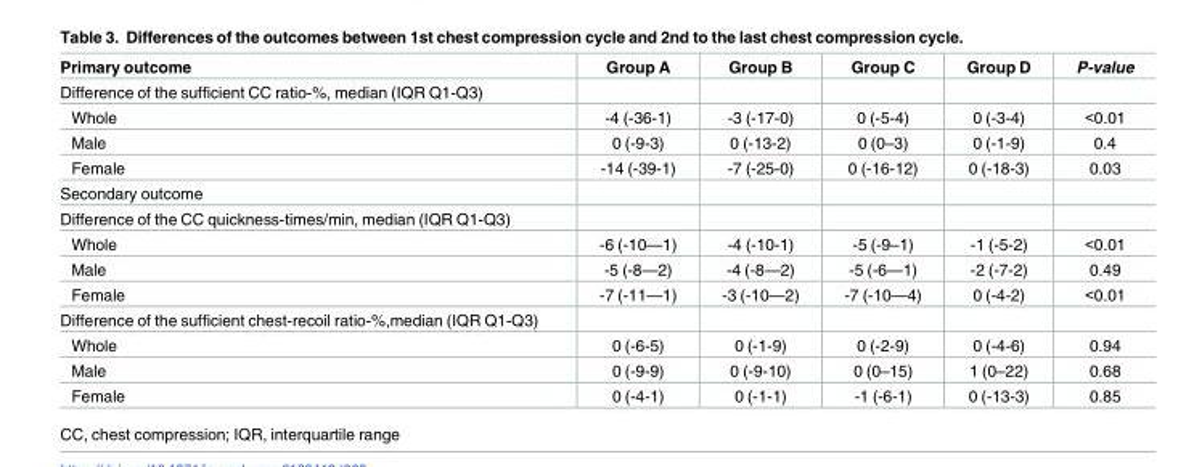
<table><thead><tr><td>Primary outcome</td><td>Group A</td><td>Group B</td><td>Group C</td><td>Group D</td><td>P-value</td></tr></thead><tbody><tr><td colspan="6">Difference of the sufficient CC ratio-%, median (IQR Q1-Q3)</td></tr><tr><td>Whole</td><td>-4 (-36-1)</td><td>-3 (-17-0)</td><td>0 (-5-4)</td><td>0 (-3-4)</td><td>&lt;0.01</td></tr><tr><td>Male</td><td>0 (-9-3)</td><td>0 (-13-2)</td><td>0 (0–3)</td><td>0 (-1-9)</td><td>0.4</td></tr><tr><td>Female</td><td>-14 (-39-1)</td><td>-7 (-25-0)</td><td>0 (-16-12)</td><td>0 (-18-3)</td><td>0.03</td></tr><tr><td colspan="6">Secondary outcome</td></tr><tr><td colspan="6">Difference of the CC quickness-times/min, median (IQR Q1-Q3)</td></tr><tr><td>Whole</td><td>-6 (-10—1)</td><td>-4 (-10-1)</td><td>-5 (-9–1)</td><td>-1 (-5-2)</td><td>&lt;0.01</td></tr><tr><td>Male</td><td>-5 (-8—2)</td><td>-4 (-8—2)</td><td>-5 (-6—1)</td><td>-2 (-7-2)</td><td>0.49</td></tr><tr><td>Female</td><td>-7 (-11—1)</td><td>-3 (-10—2)</td><td>-7 (-10—4)</td><td>0 (-4-2)</td><td>&lt;0.01</td></tr><tr><td colspan="6">Difference of the sufficient chest-recoil ratio-%,median (IQR Q1-Q3)</td></tr><tr><td>Whole</td><td>0 (-6-5)</td><td>0 (-1-9)</td><td>0 (-2-9)</td><td>0 (-4-6)</td><td>0.94</td></tr><tr><td>Male</td><td>0 (-9-9)</td><td>0 (-9-10)</td><td>0 (0–15)</td><td>1 (0–22)</td><td>0.68</td></tr><tr><td>Female</td><td>0 (-4-1)</td><td>0 (-1-1)</td><td>-1 (-6-1)</td><td>0 (-13-3)</td><td>0.85</td></tr></tbody></table>